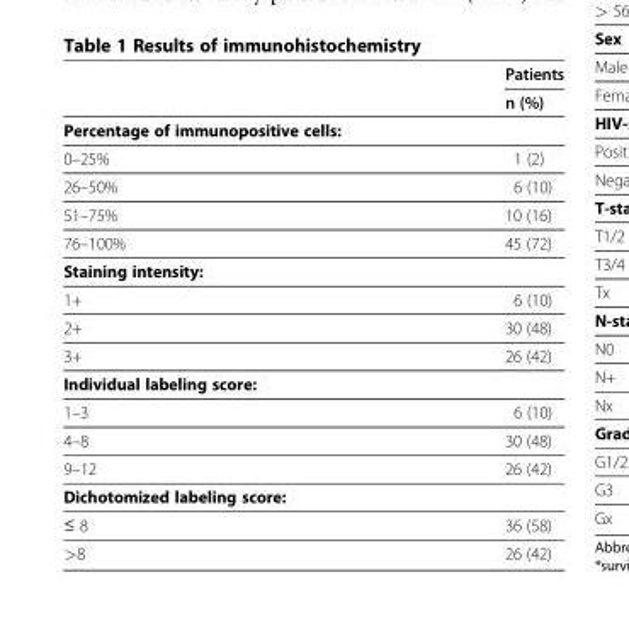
<table><thead><tr><td rowspan="2"></td><td rowspan="2">Patients n (%)</td></tr><tr></tr></thead><tbody><tr><td colspan="2">Percentage of immunopositive cells:</td></tr><tr><td>0–25%</td><td>1 (2)</td></tr><tr><td>26–50%</td><td>6 (10)</td></tr><tr><td>51–75%</td><td>10 (16)</td></tr><tr><td>76–100%</td><td>45 (72)</td></tr><tr><td colspan="2">Staining intensity:</td></tr><tr><td>1+</td><td>6 (10)</td></tr><tr><td>2+</td><td>30 (48)</td></tr><tr><td>3+</td><td>26 (42)</td></tr><tr><td colspan="2">Individual labeling score:</td></tr><tr><td>1–3</td><td>6 (10)</td></tr><tr><td>4–8</td><td>30 (48)</td></tr><tr><td>9–12</td><td>26 (42)</td></tr><tr><td colspan="2">Dichotomized labeling score:</td></tr><tr><td>≤ 8</td><td>36 (58)</td></tr><tr><td>&gt;8</td><td>26 (42)</td></tr></tbody></table>